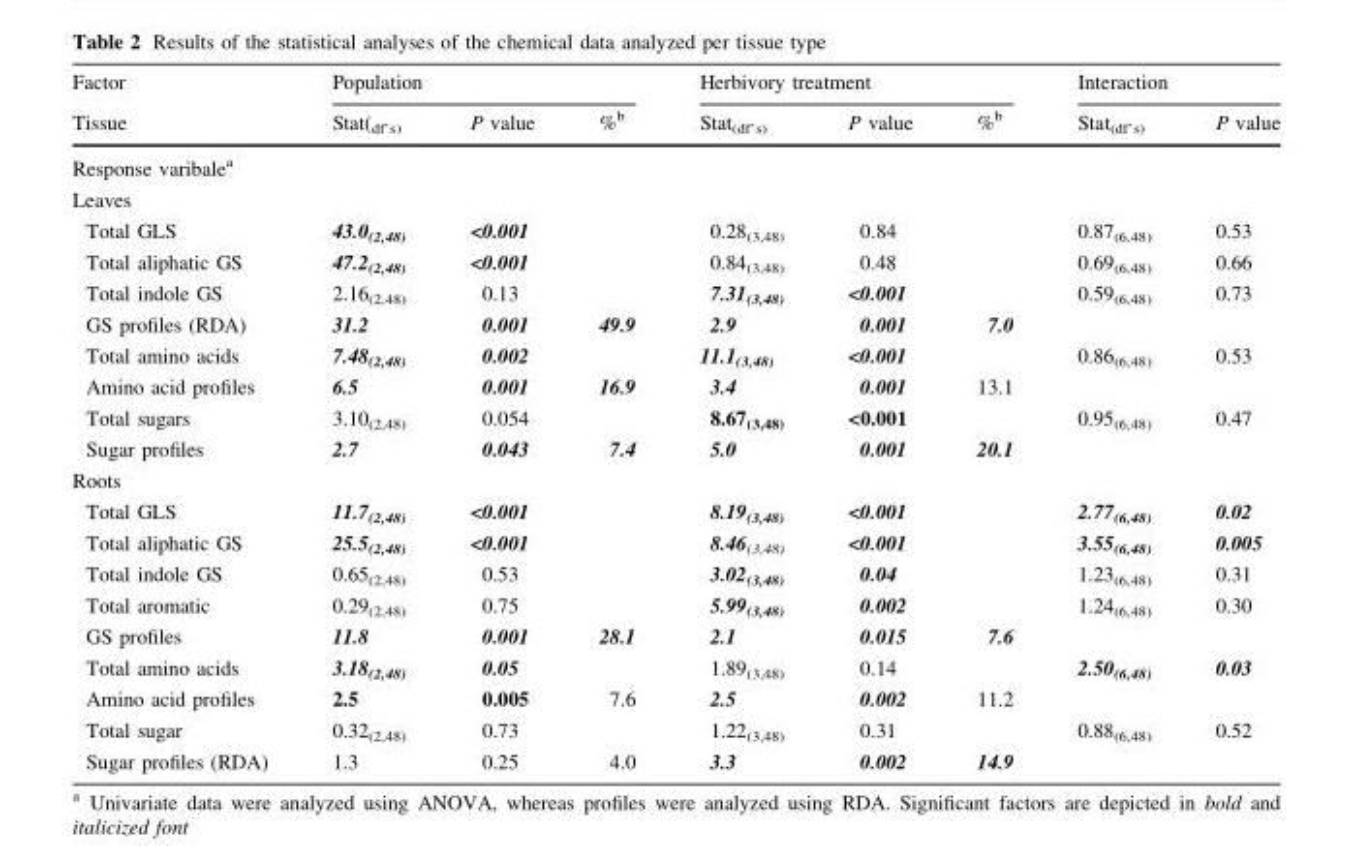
<table><thead><tr><td rowspan="2">Factor Tissue</td><td colspan="3">Population</td><td colspan="3">Herbivory treatment</td><td colspan="2">Interaction</td></tr><tr><td>Stat(df’s)</td><td>P value</td><td>%<sup>b</sup></td><td>Stat<sub>(df’s)</sub></td><td>P value</td><td>%<sup>b</sup></td><td>Stat<sub>(df’s)</sub></td><td>P value</td></tr></thead><tbody><tr><td colspan="9">Response varibale<sup>a</sup></td></tr><tr><td colspan="9">Leaves</td></tr><tr><td>Total GLS</td><td>43.0<sub>(2,48)</sub></td><td>&lt;0.001</td><td></td><td>0.28<sub>(3,48)</sub></td><td>0.84</td><td></td><td>0.87<sub>(6,48)</sub></td><td>0.53</td></tr><tr><td>Total aliphatic GS</td><td>47.2<sub>(2,48)</sub></td><td>&lt;0.001</td><td></td><td>0.84<sub>(3,48)</sub></td><td>0.48</td><td></td><td>0.69<sub>(6,48)</sub></td><td>0.66</td></tr><tr><td>Total indole GS</td><td>2.16<sub>(2,48)</sub></td><td>0.13</td><td></td><td>7.31<sub>(3,48)</sub></td><td>&lt;0.001</td><td></td><td>0.59<sub>(6,48)</sub></td><td>0.73</td></tr><tr><td>GS profiles (RDA)</td><td>31.2</td><td>0.001</td><td>49.9</td><td>2.9</td><td>0.001</td><td>7.0</td><td></td><td></td></tr><tr><td>Total amino acids</td><td>7.48<sub>(2,48)</sub></td><td>0.002</td><td></td><td>11.1<sub>(3,48)</sub></td><td>&lt;0.001</td><td></td><td>0.86<sub>(6,48)</sub></td><td>0.53</td></tr><tr><td>Amino acid profiles</td><td>6.5</td><td>0.001</td><td>16.9</td><td>3.4</td><td>0.001</td><td>13.1</td><td></td><td></td></tr><tr><td>Total sugars</td><td>3.10<sub>(2,48)</sub></td><td>0.054</td><td></td><td>8.67<sub>(3,48)</sub></td><td>&lt;0.001</td><td></td><td>0.95<sub>(6,48)</sub></td><td>0.47</td></tr><tr><td>Sugar profiles</td><td>2.7</td><td>0.043</td><td>7.4</td><td>5.0</td><td>0.001</td><td>20.1</td><td></td><td></td></tr><tr><td colspan="9">Roots</td></tr><tr><td>Total GLS</td><td>11.7<sub>(2,48)</sub></td><td>&lt;0.001</td><td></td><td>8.19<sub>(3,48)</sub></td><td>&lt;0.001</td><td></td><td>2.77<sub>(6,48)</sub></td><td>0.02</td></tr><tr><td>Total aliphatic GS</td><td>25.5<sub>(2,48)</sub></td><td>&lt;0.001</td><td></td><td>8.46<sub>(3,48)</sub></td><td>&lt;0.001</td><td></td><td>3.55<sub>(6,48)</sub></td><td>0.005</td></tr><tr><td>Total indole GS</td><td>0.65<sub>(2,48)</sub></td><td>0.53</td><td></td><td>3.02<sub>(3,48)</sub></td><td>0.04</td><td></td><td>1.23<sub>(6,48)</sub></td><td>0.31</td></tr><tr><td>Total aromatic</td><td>0.29<sub>(2,48)</sub></td><td>0.75</td><td></td><td>5.99<sub>(3,48)</sub></td><td>0.002</td><td></td><td>1.24<sub>(6,48)</sub></td><td>0.30</td></tr><tr><td>GS profiles</td><td>11.8</td><td>0.001</td><td>28.1</td><td>2.1</td><td>0.015</td><td>7.6</td><td></td><td></td></tr><tr><td>Total amino acids</td><td>3.18<sub>(2,48)</sub></td><td>0.05</td><td></td><td>1.89<sub>(3,48)</sub></td><td>0.14</td><td></td><td>2.50<sub>(6,48)</sub></td><td>0.03</td></tr><tr><td>Amino acid profiles</td><td>2.5</td><td>0.005</td><td>7.6</td><td>2.5</td><td>0.002</td><td>11.2</td><td></td><td></td></tr><tr><td>Total sugar</td><td>0.32<sub>(2,48)</sub></td><td>0.73</td><td></td><td>1.22<sub>(3,48)</sub></td><td>0.31</td><td></td><td>0.88<sub>(6,48)</sub></td><td>0.52</td></tr><tr><td>Sugar profiles (RDA)</td><td>1.3</td><td>0.25</td><td>4.0</td><td>3.3</td><td>0.002</td><td>14.9</td><td></td><td></td></tr></tbody></table>